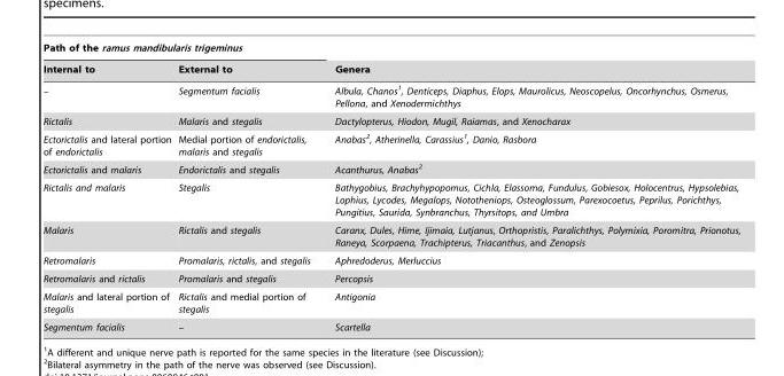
<table><thead><tr><td colspan="2">Path of the ramus mandibularis trigeminus</td><td rowspan="2">Genera</td></tr><tr><td>Internal to</td><td>External to</td></tr></thead><tbody><tr><td>–</td><td>Segmentum facialis</td><td>Albula, Chanos<sup>1</sup>, Denticeps, Diaphus, Elops, Maurolicus, Neoscopelus, Oncorhynchus, Osmerus, Pellona, and Xenodermichthys</td></tr><tr><td>Rictalis</td><td>Malaris and stegalis</td><td>Dactylopterus, Hiodon, Mugil, Raiamas, and Xenocharax</td></tr><tr><td>Ectorictalis and lateral portion of endorictalis</td><td>Medial portion of endorictalis, malaris and stegalis</td><td>Anabas<sup>2</sup>, Atherinella, Carassius<sup>1</sup>, Danio, Rasbora</td></tr><tr><td>Ectorictalis and malaris</td><td>Endorictalis and stegalis</td><td>Acanthurus, Anabas<sup>2</sup></td></tr><tr><td>Rictalis and malaris</td><td>Stegalis</td><td>Bathygobius, Brachyhypopomus, Cichla, Elassoma, Fundulus, Gobiesox, Holocentrus, Hypsolebias, Lophius, Lycodes, Megalops, Nototheniops, Osteoglossum, Parexocoetus, Peprilus, Porichthys, Pungitius, Saurida, Synbranchus, Thyrsitops, and Umbra</td></tr><tr><td>Malaris</td><td>Rictalis and stegalis</td><td>Caranx, Dules, Hime, Ijimaia, Lutjanus, Orthopristis, Paralichthys, Polymixia, Poromitra, Prionotus, Raneya, Scorpaena, Trachipterus, Triacanthus, and Zenopsis</td></tr><tr><td>Retromalaris</td><td>Promalaris, rictalis, and stegalis</td><td>Aphredoderus, Merluccius</td></tr><tr><td>Retromalaris and rictalis</td><td>Promalaris and stegalis</td><td>Percopsis</td></tr><tr><td>Malaris and lateral portion of stegalis</td><td>Rictalis and medial portion of stegalis</td><td>Antigonia</td></tr><tr><td>Segmentum facialis</td><td>–</td><td>Scartella</td></tr></tbody></table>